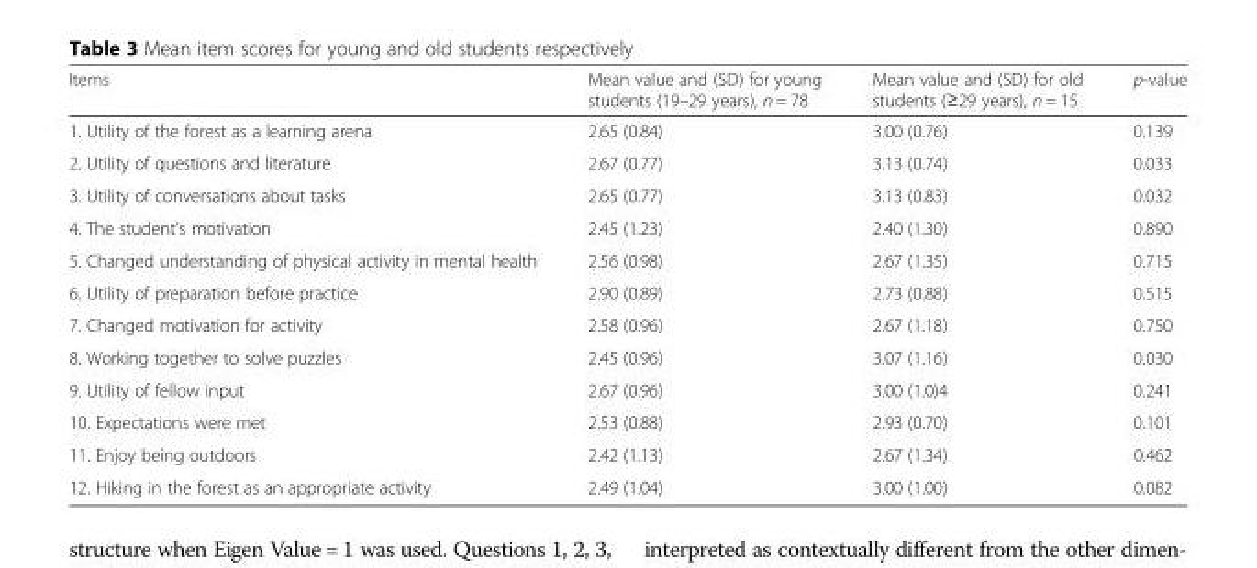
<table><thead><tr><td>Items</td><td>Mean value and (SD) for young students (19–29 years), n = 78</td><td>Mean value and (SD) for old students (≥29 years), n = 15</td><td>p-value</td></tr></thead><tbody><tr><td>1. Utility of the forest as a learning arena</td><td>2.65 (0.84)</td><td>3.00 (0.76)</td><td>0.139</td></tr><tr><td>2. Utility of questions and literature</td><td>2.67 (0.77)</td><td>3.13 (0.74)</td><td>0.033</td></tr><tr><td>3. Utility of conversations about tasks</td><td>2.65 (0.77)</td><td>3.13 (0.83)</td><td>0.032</td></tr><tr><td>4. The student’s motivation</td><td>2.45 (1.23)</td><td>2.40 (1.30)</td><td>0.890</td></tr><tr><td>5. Changed understanding of physical activity in mental health</td><td>2.56 (0.98)</td><td>2.67 (1.35)</td><td>0.715</td></tr><tr><td>6. Utility of preparation before practice</td><td>2.90 (0.89)</td><td>2.73 (0.88)</td><td>0.515</td></tr><tr><td>7. Changed motivation for activity</td><td>2.58 (0.96)</td><td>2.67 (1.18)</td><td>0.750</td></tr><tr><td>8. Working together to solve puzzles</td><td>2.45 (0.96)</td><td>3.07 (1.16)</td><td>0.030</td></tr><tr><td>9. Utility of fellow input</td><td>2.67 (0.96)</td><td>3.00 (1.0)4</td><td>0.241</td></tr><tr><td>10. Expectations were met</td><td>2.53 (0.88)</td><td>2.93 (0.70)</td><td>0.101</td></tr><tr><td>11. Enjoy being outdoors</td><td>2.42 (1.13)</td><td>2.67 (1.34)</td><td>0.462</td></tr><tr><td>12. Hiking in the forest as an appropriate activity</td><td>2.49 (1.04)</td><td>3.00 (1.00)</td><td>0.082</td></tr></tbody></table>